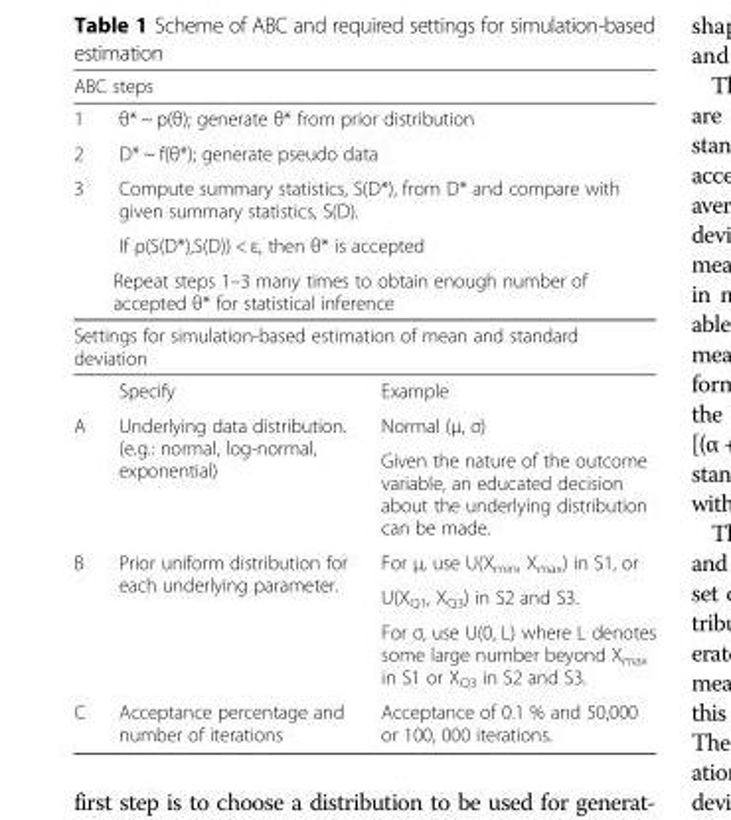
<table><thead><tr><td colspan="3">ABC steps</td></tr></thead><tbody><tr><td>1</td><td colspan="2">θ* ~ p(θ); generate θ* from prior distribution</td></tr><tr><td>2</td><td colspan="2">D* ~ f(θ*); generate pseudo data</td></tr><tr><td rowspan="2">3</td><td colspan="2">Compute summary statistics, S(D*), from D* and compare with given summary statistics, S(D).</td></tr><tr><td colspan="2">If ρ(S(D*),S(D)) &lt; ε, then θ* is accepted</td></tr><tr><td colspan="3">Repeat steps 1–3 many times to obtain enough number of accepted θ* for statistical inference</td></tr><tr><td colspan="3">Settings for simulation-based estimation of mean and standard deviation</td></tr><tr><td></td><td>Specify</td><td>Example</td></tr><tr><td rowspan="2">A</td><td rowspan="2">Underlying data distribution. (e.g.: normal, log-normal, exponential)</td><td>Normal (μ, σ)</td></tr><tr><td>Given the nature of the outcome variable, an educated decision about the underlying distribution can be made.</td></tr><tr><td rowspan="3">B</td><td rowspan="3">Prior uniform distribution for each underlying parameter.</td><td>For μ, use U(X<sub>min</sub>, X<sub>max</sub>) in S1, or</td></tr><tr><td>U(X<sub>Q1</sub>, X<sub>Q3</sub>) in S2 and S3.</td></tr><tr><td>For σ, use U(0, L) where L denotes some large number beyond X<sub>max</sub> in S1 or X<sub>Q3</sub> in S2 and S3.</td></tr><tr><td>C</td><td>Acceptance percentage and number of iterations</td><td>Acceptance of 0.1 % and 50,000 or 100, 000 iterations.</td></tr></tbody></table>